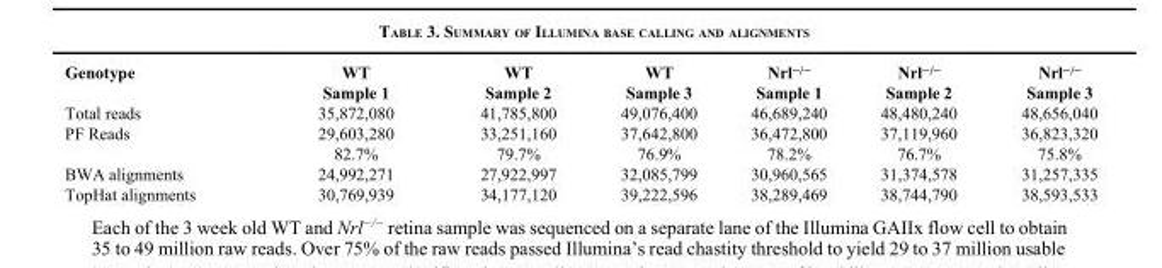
<table><thead><tr><td rowspan="2">Genotype</td><td rowspan="2">WT Sample 1</td><td rowspan="2">WT Sample 2</td><td rowspan="2">WT Sample 3</td><td rowspan="2">Nrl<sup>−/−</sup> Sample 1</td><td rowspan="2">Nrl<sup>−/−</sup> Sample 2</td><td rowspan="2">Nrl<sup>−/−</sup> Sample 3</td></tr><tr></tr></thead><tbody><tr><td>Total reads</td><td>35,872,080</td><td>41,785,800</td><td>49,076,400</td><td>46,689,240</td><td>48,480,240</td><td>48,656,040</td></tr><tr><td rowspan="2">PF Reads</td><td>29,603,280</td><td>33,251,160</td><td>37,642,800</td><td>36,472,800</td><td>37,119,960</td><td>36,823,320</td></tr><tr><td>82.7%</td><td>79.7%</td><td>76.9%</td><td>78.2%</td><td>76.7%</td><td>75.8%</td></tr><tr><td>BWA alignments</td><td>24,992,271</td><td>27,922,997</td><td>32,085,799</td><td>30,960,565</td><td>31,374,578</td><td>31,257,335</td></tr><tr><td>TopHat alignments</td><td>30,769,939</td><td>34,177,120</td><td>39,222,596</td><td>38,289,469</td><td>38,744,790</td><td>38,593,533</td></tr></tbody></table>